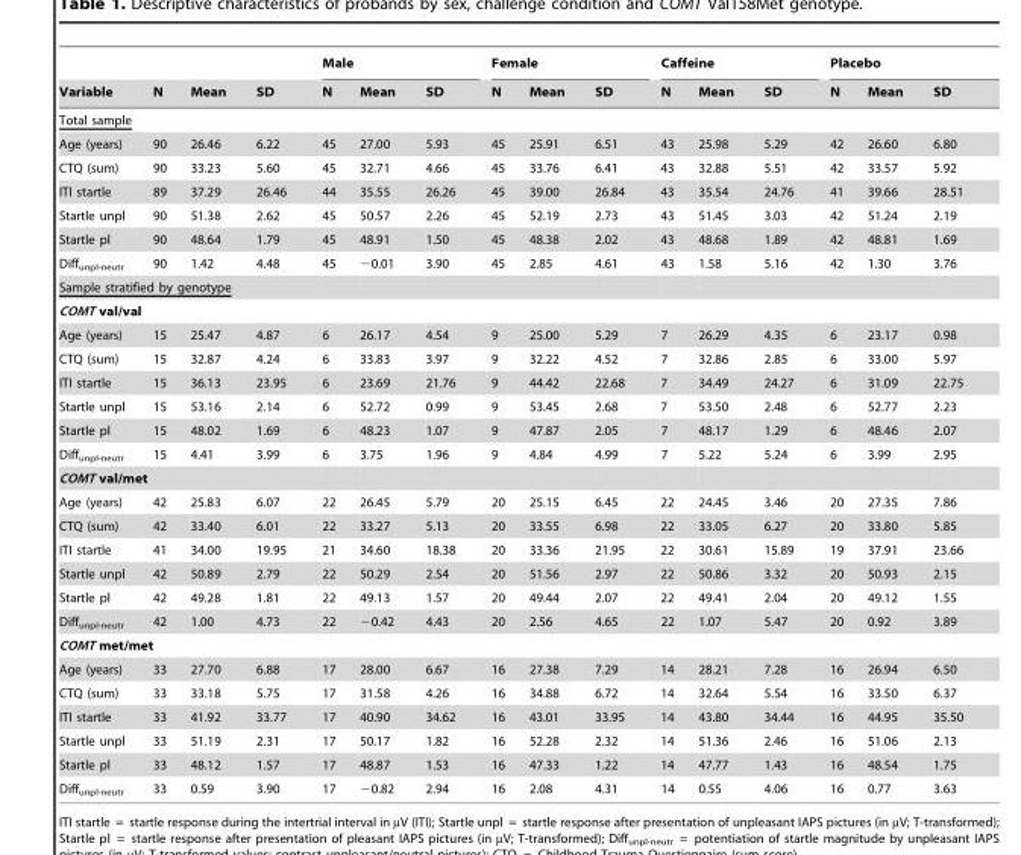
<table><thead><tr><td rowspan="2">Variable</td><td rowspan="2">N</td><td rowspan="2">Mean</td><td rowspan="2">SD</td><td colspan="3">Male</td><td colspan="3">Female</td><td colspan="3">Caffeine</td><td colspan="3">Placebo</td></tr><tr><td>N</td><td>Mean</td><td>SD</td><td>N</td><td>Mean</td><td>SD</td><td>N</td><td>Mean</td><td>SD</td><td>N</td><td>Mean</td><td>SD</td></tr></thead><tbody><tr><td colspan="16">Total sample</td></tr><tr><td>Age (years)</td><td>90</td><td>26.46</td><td>6.22</td><td>45</td><td>27.00</td><td>5.93</td><td>45</td><td>25.91</td><td>6.51</td><td>43</td><td>25.98</td><td>5.29</td><td>42</td><td>26.60</td><td>6.80</td></tr><tr><td>CTQ (sum)</td><td>90</td><td>33.23</td><td>5.60</td><td>45</td><td>32.71</td><td>4.66</td><td>45</td><td>33.76</td><td>6.41</td><td>43</td><td>32.88</td><td>5.51</td><td>42</td><td>33.57</td><td>5.92</td></tr><tr><td>ITI startle</td><td>89</td><td>37.29</td><td>26.46</td><td>44</td><td>35.55</td><td>26.26</td><td>45</td><td>39.00</td><td>26.84</td><td>43</td><td>35.54</td><td>24.76</td><td>41</td><td>39.66</td><td>28.51</td></tr><tr><td>Startle unpl</td><td>90</td><td>51.38</td><td>2.62</td><td>45</td><td>50.57</td><td>2.26</td><td>45</td><td>52.19</td><td>2.73</td><td>43</td><td>51.45</td><td>3.03</td><td>42</td><td>51.24</td><td>2.19</td></tr><tr><td>Startle pl</td><td>90</td><td>48.64</td><td>1.79</td><td>45</td><td>48.91</td><td>1.50</td><td>45</td><td>48.38</td><td>2.02</td><td>43</td><td>48.68</td><td>1.89</td><td>42</td><td>48.81</td><td>1.69</td></tr><tr><td>Diff<sub>unpl-neutr</sub></td><td>90</td><td>1.42</td><td>4.48</td><td>45</td><td>−0.01</td><td>3.90</td><td>45</td><td>2.85</td><td>4.61</td><td>43</td><td>1.58</td><td>5.16</td><td>42</td><td>1.30</td><td>3.76</td></tr><tr><td colspan="16">Sample stratified by genotype</td></tr><tr><td colspan="16">COMT val/val</td></tr><tr><td>Age (years)</td><td>15</td><td>25.47</td><td>4.87</td><td>6</td><td>26.17</td><td>4.54</td><td>9</td><td>25.00</td><td>5.29</td><td>7</td><td>26.29</td><td>4.35</td><td>6</td><td>23.17</td><td>0.98</td></tr><tr><td>CTQ (sum)</td><td>15</td><td>32.87</td><td>4.24</td><td>6</td><td>33.83</td><td>3.97</td><td>9</td><td>32.22</td><td>4.52</td><td>7</td><td>32.86</td><td>2.85</td><td>6</td><td>33.00</td><td>5.97</td></tr><tr><td>ITI startle</td><td>15</td><td>36.13</td><td>23.95</td><td>6</td><td>23.69</td><td>21.76</td><td>9</td><td>44.42</td><td>22.68</td><td>7</td><td>34.49</td><td>24.27</td><td>6</td><td>31.09</td><td>22.75</td></tr><tr><td>Startle unpl</td><td>15</td><td>53.16</td><td>2.14</td><td>6</td><td>52.72</td><td>0.99</td><td>9</td><td>53.45</td><td>2.68</td><td>7</td><td>53.50</td><td>2.48</td><td>6</td><td>52.77</td><td>2.23</td></tr><tr><td>Startle pl</td><td>15</td><td>48.02</td><td>1.69</td><td>6</td><td>48.23</td><td>1.07</td><td>9</td><td>47.87</td><td>2.05</td><td>7</td><td>48.17</td><td>1.29</td><td>6</td><td>48.46</td><td>2.07</td></tr><tr><td>Diff<sub>unpl-neutr</sub></td><td>15</td><td>4.41</td><td>3.99</td><td>6</td><td>3.75</td><td>1.96</td><td>9</td><td>4.84</td><td>4.99</td><td>7</td><td>5.22</td><td>5.24</td><td>6</td><td>3.99</td><td>2.95</td></tr><tr><td colspan="16">COMT val/met</td></tr><tr><td>Age (years)</td><td>42</td><td>25.83</td><td>6.07</td><td>22</td><td>26.45</td><td>5.79</td><td>20</td><td>25.15</td><td>6.45</td><td>22</td><td>24.45</td><td>3.46</td><td>20</td><td>27.35</td><td>7.86</td></tr><tr><td>CTQ (sum)</td><td>42</td><td>33.40</td><td>6.01</td><td>22</td><td>33.27</td><td>5.13</td><td>20</td><td>33.55</td><td>6.98</td><td>22</td><td>33.05</td><td>6.27</td><td>20</td><td>33.80</td><td>5.85</td></tr><tr><td>ITI startle</td><td>41</td><td>34.00</td><td>19.95</td><td>21</td><td>34.60</td><td>18.38</td><td>20</td><td>33.36</td><td>21.95</td><td>22</td><td>30.61</td><td>15.89</td><td>19</td><td>37.91</td><td>23.66</td></tr><tr><td>Startle unpl</td><td>42</td><td>50.89</td><td>2.79</td><td>22</td><td>50.29</td><td>2.54</td><td>20</td><td>51.56</td><td>2.97</td><td>22</td><td>50.86</td><td>3.32</td><td>20</td><td>50.93</td><td>2.15</td></tr><tr><td>Startle pl</td><td>42</td><td>49.28</td><td>1.81</td><td>22</td><td>49.13</td><td>1.57</td><td>20</td><td>49.44</td><td>2.07</td><td>22</td><td>49.41</td><td>2.04</td><td>20</td><td>49.12</td><td>1.55</td></tr><tr><td>Diff<sub>unpl-neutr</sub></td><td>42</td><td>1.00</td><td>4.73</td><td>22</td><td>−0.42</td><td>4.43</td><td>20</td><td>2.56</td><td>4.65</td><td>22</td><td>1.07</td><td>5.47</td><td>20</td><td>0.92</td><td>3.89</td></tr><tr><td colspan="16">COMT met/met</td></tr><tr><td>Age (years)</td><td>33</td><td>27.70</td><td>6.88</td><td>17</td><td>28.00</td><td>6.67</td><td>16</td><td>27.38</td><td>7.29</td><td>14</td><td>28.21</td><td>7.28</td><td>16</td><td>26.94</td><td>6.50</td></tr><tr><td>CTQ (sum)</td><td>33</td><td>33.18</td><td>5.75</td><td>17</td><td>31.58</td><td>4.26</td><td>16</td><td>34.88</td><td>6.72</td><td>14</td><td>32.64</td><td>5.54</td><td>16</td><td>33.50</td><td>6.37</td></tr><tr><td>ITI startle</td><td>33</td><td>41.92</td><td>33.77</td><td>17</td><td>40.90</td><td>34.62</td><td>16</td><td>43.01</td><td>33.95</td><td>14</td><td>43.80</td><td>34.44</td><td>16</td><td>44.95</td><td>35.50</td></tr><tr><td>Startle unpl</td><td>33</td><td>51.19</td><td>2.31</td><td>17</td><td>50.17</td><td>1.82</td><td>16</td><td>52.28</td><td>2.32</td><td>14</td><td>51.36</td><td>2.46</td><td>16</td><td>51.06</td><td>2.13</td></tr><tr><td>Startle pl</td><td>33</td><td>48.12</td><td>1.57</td><td>17</td><td>48.87</td><td>1.53</td><td>16</td><td>47.33</td><td>1.22</td><td>14</td><td>47.77</td><td>1.43</td><td>16</td><td>48.54</td><td>1.75</td></tr><tr><td>Diff<sub>unpl-neutr</sub></td><td>33</td><td>0.59</td><td>3.90</td><td>17</td><td>−0.82</td><td>2.94</td><td>16</td><td>2.08</td><td>4.31</td><td>14</td><td>0.55</td><td>4.06</td><td>16</td><td>0.77</td><td>3.63</td></tr></tbody></table>